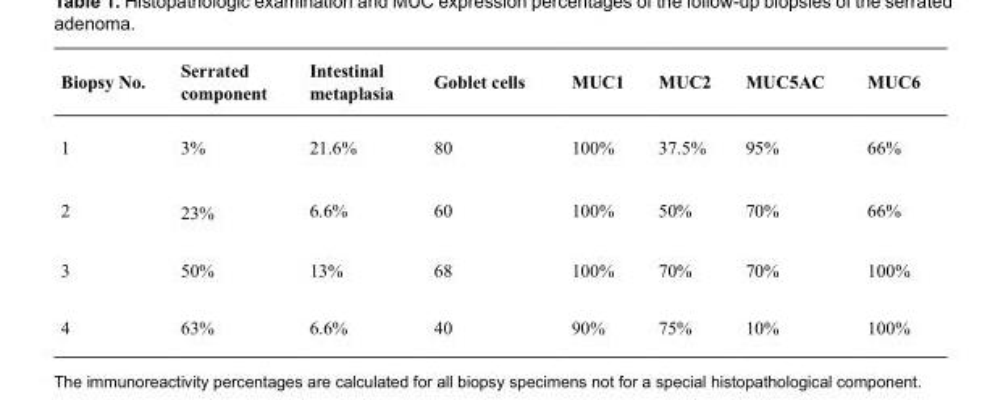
<table><thead><tr><td>Biopsy No.</td><td>Serrated component</td><td>Intestinal metaplasia</td><td>Goblet cells</td><td>MUC1</td><td>MUC2</td><td>MUC5AC</td><td>MUC6</td></tr></thead><tbody><tr><td>1</td><td>3%</td><td>21.6%</td><td>80</td><td>100%</td><td>37.5%</td><td>95%</td><td>66%</td></tr><tr><td>2</td><td>23%</td><td>6.6%</td><td>60</td><td>100%</td><td>50%</td><td>70%</td><td>66%</td></tr><tr><td>3</td><td>50%</td><td>13%</td><td>68</td><td>100%</td><td>70%</td><td>70%</td><td>100%</td></tr><tr><td>4</td><td>63%</td><td>6.6%</td><td>40</td><td>90%</td><td>75%</td><td>10%</td><td>100%</td></tr></tbody></table>